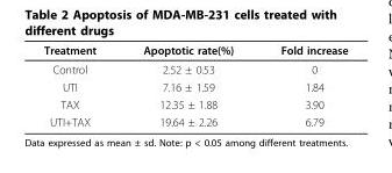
<table><thead><tr><td>Treatment</td><td>Apoptotic rate(%)</td><td>Fold increase</td></tr></thead><tbody><tr><td>Control</td><td>2.52 ± 0.53</td><td>0</td></tr><tr><td>UTI</td><td>7.16 ± 1.59</td><td>1.84</td></tr><tr><td>TAX</td><td>12.35 ± 1.88</td><td>3.90</td></tr><tr><td>UTI+TAX</td><td>19.64 ± 2.26</td><td>6.79</td></tr></tbody></table>